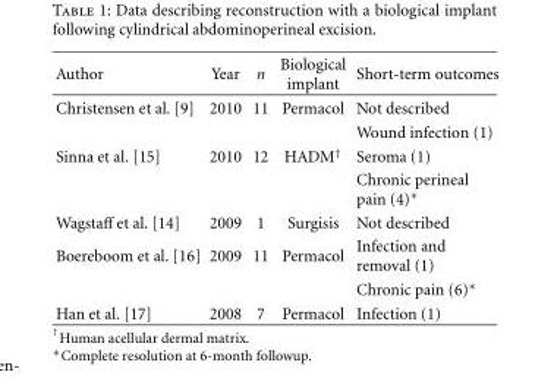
<table><thead><tr><td>Author</td><td>Year</td><td>n</td><td>Biological implant</td><td>Short-term outcomes</td></tr></thead><tbody><tr><td rowspan="2">Christensen et al. [9]</td><td>2010</td><td>11</td><td>Permacol</td><td>Not described</td></tr><tr><td></td><td></td><td></td><td>Wound infection (1)</td></tr><tr><td rowspan="2">Sinna et al. [15]</td><td>2010</td><td>12</td><td>HADM<sup>†</sup></td><td>Seroma (1)</td></tr><tr><td></td><td></td><td></td><td>Chronic perineal pain (4)∗</td></tr><tr><td>Wagstaff et al. [14]</td><td>2009</td><td>1</td><td>Surgisis</td><td>Not described</td></tr><tr><td rowspan="2">Boereboom et al. [16]</td><td>2009</td><td>11</td><td>Permacol</td><td>Infection and removal (1)</td></tr><tr><td></td><td></td><td></td><td>Chronic pain (6)∗</td></tr><tr><td>Han et al. [17]</td><td>2008</td><td>7</td><td>Permacol</td><td>Infection (1)</td></tr></tbody></table>